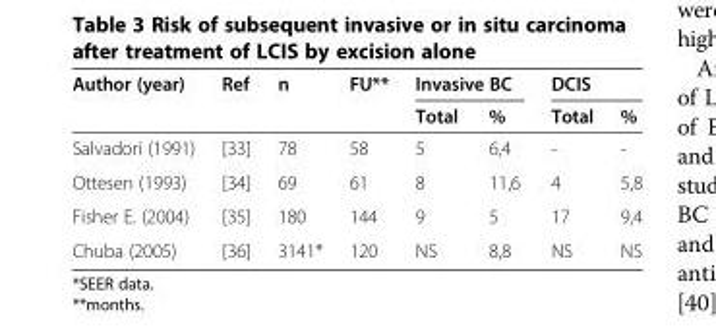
<table><thead><tr><td rowspan="2">Author (year)</td><td rowspan="2">Ref</td><td rowspan="2">n</td><td rowspan="2">FU**</td><td colspan="2">Invasive BC</td><td colspan="2">DCIS</td></tr><tr><td>Total</td><td>%</td><td>Total</td><td>%</td></tr></thead><tbody><tr><td>Salvadori (1991)</td><td>[33]</td><td>78</td><td>58</td><td>5</td><td>6,4</td><td>-</td><td>-</td></tr><tr><td>Ottesen (1993)</td><td>[34]</td><td>69</td><td>61</td><td>8</td><td>11,6</td><td>4</td><td>5,8</td></tr><tr><td>Fisher E. (2004)</td><td>[35]</td><td>180</td><td>144</td><td>9</td><td>5</td><td>17</td><td>9,4</td></tr><tr><td>Chuba (2005)</td><td>[36]</td><td>3141*</td><td>120</td><td>NS</td><td>8,8</td><td>NS</td><td>NS</td></tr></tbody></table>